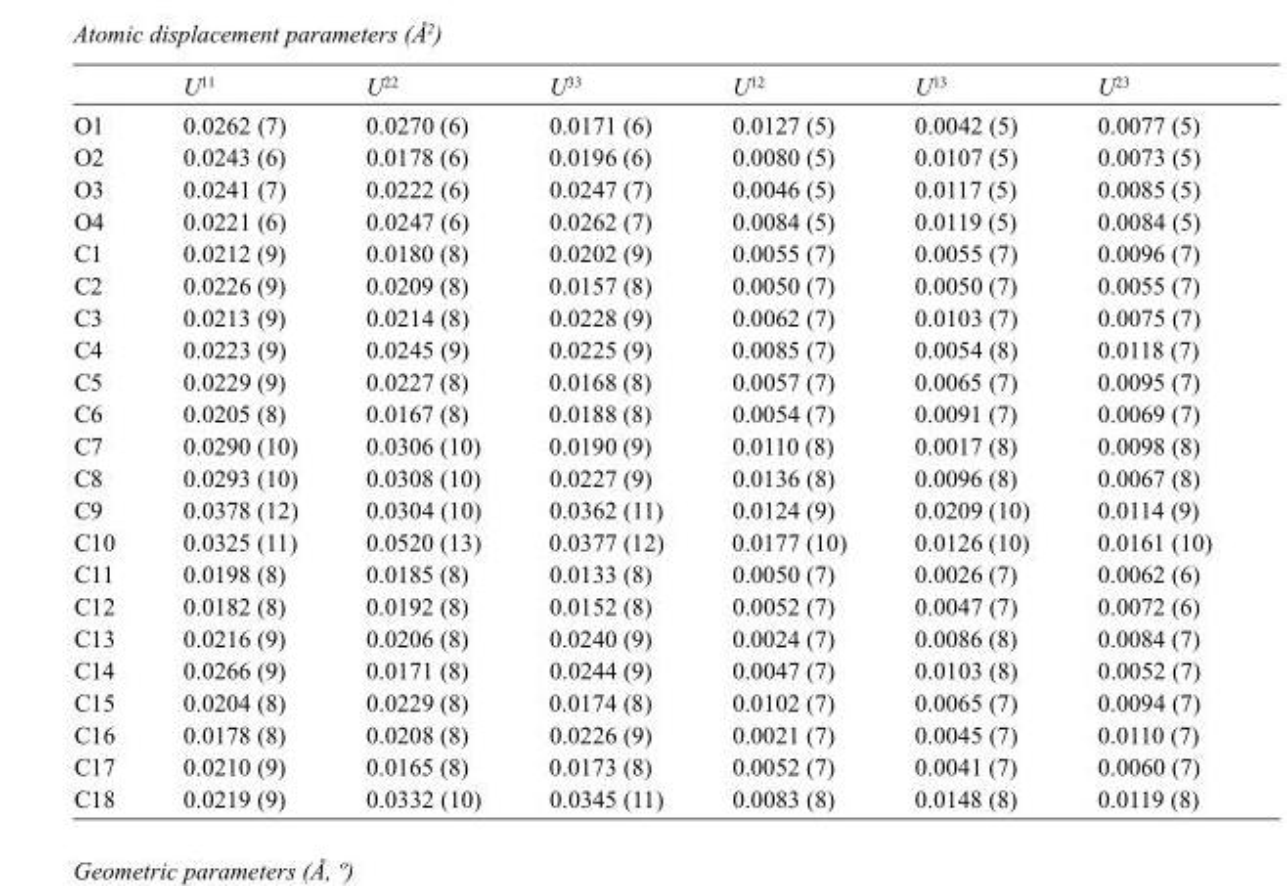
<table><thead><tr><td></td><td>U<sup>11</sup></td><td>U<sup>22</sup></td><td>U<sup>33</sup></td><td>U<sup>12</sup></td><td>U<sup>13</sup></td><td>U<sup>23</sup></td></tr></thead><tbody><tr><td>O1</td><td>0.0262 (7)</td><td>0.0270 (6)</td><td>0.0171 (6)</td><td>0.0127 (5)</td><td>0.0042 (5)</td><td>0.0077 (5)</td></tr><tr><td>O2</td><td>0.0243 (6)</td><td>0.0178 (6)</td><td>0.0196 (6)</td><td>0.0080 (5)</td><td>0.0107 (5)</td><td>0.0073 (5)</td></tr><tr><td>O3</td><td>0.0241 (7)</td><td>0.0222 (6)</td><td>0.0247 (7)</td><td>0.0046 (5)</td><td>0.0117 (5)</td><td>0.0085 (5)</td></tr><tr><td>O4</td><td>0.0221 (6)</td><td>0.0247 (6)</td><td>0.0262 (7)</td><td>0.0084 (5)</td><td>0.0119 (5)</td><td>0.0084 (5)</td></tr><tr><td>C1</td><td>0.0212 (9)</td><td>0.0180 (8)</td><td>0.0202 (9)</td><td>0.0055 (7)</td><td>0.0055 (7)</td><td>0.0096 (7)</td></tr><tr><td>C2</td><td>0.0226 (9)</td><td>0.0209 (8)</td><td>0.0157 (8)</td><td>0.0050 (7)</td><td>0.0050 (7)</td><td>0.0055 (7)</td></tr><tr><td>C3</td><td>0.0213 (9)</td><td>0.0214 (8)</td><td>0.0228 (9)</td><td>0.0062 (7)</td><td>0.0103 (7)</td><td>0.0075 (7)</td></tr><tr><td>C4</td><td>0.0223 (9)</td><td>0.0245 (9)</td><td>0.0225 (9)</td><td>0.0085 (7)</td><td>0.0054 (8)</td><td>0.0118 (7)</td></tr><tr><td>C5</td><td>0.0229 (9)</td><td>0.0227 (8)</td><td>0.0168 (8)</td><td>0.0057 (7)</td><td>0.0065 (7)</td><td>0.0095 (7)</td></tr><tr><td>C6</td><td>0.0205 (8)</td><td>0.0167 (8)</td><td>0.0188 (8)</td><td>0.0054 (7)</td><td>0.0091 (7)</td><td>0.0069 (7)</td></tr><tr><td>C7</td><td>0.0290 (10)</td><td>0.0306 (10)</td><td>0.0190 (9)</td><td>0.0110 (8)</td><td>0.0017 (8)</td><td>0.0098 (8)</td></tr><tr><td>C8</td><td>0.0293 (10)</td><td>0.0308 (10)</td><td>0.0227 (9)</td><td>0.0136 (8)</td><td>0.0096 (8)</td><td>0.0067 (8)</td></tr><tr><td>C9</td><td>0.0378 (12)</td><td>0.0304 (10)</td><td>0.0362 (11)</td><td>0.0124 (9)</td><td>0.0209 (10)</td><td>0.0114 (9)</td></tr><tr><td>C10</td><td>0.0325 (11)</td><td>0.0520 (13)</td><td>0.0377 (12)</td><td>0.0177 (10)</td><td>0.0126 (10)</td><td>0.0161 (10)</td></tr><tr><td>C11</td><td>0.0198 (8)</td><td>0.0185 (8)</td><td>0.0133 (8)</td><td>0.0050 (7)</td><td>0.0026 (7)</td><td>0.0062 (6)</td></tr><tr><td>C12</td><td>0.0182 (8)</td><td>0.0192 (8)</td><td>0.0152 (8)</td><td>0.0052 (7)</td><td>0.0047 (7)</td><td>0.0072 (6)</td></tr><tr><td>C13</td><td>0.0216 (9)</td><td>0.0206 (8)</td><td>0.0240 (9)</td><td>0.0024 (7)</td><td>0.0086 (8)</td><td>0.0084 (7)</td></tr><tr><td>C14</td><td>0.0266 (9)</td><td>0.0171 (8)</td><td>0.0244 (9)</td><td>0.0047 (7)</td><td>0.0103 (8)</td><td>0.0052 (7)</td></tr><tr><td>C15</td><td>0.0204 (8)</td><td>0.0229 (8)</td><td>0.0174 (8)</td><td>0.0102 (7)</td><td>0.0065 (7)</td><td>0.0094 (7)</td></tr><tr><td>C16</td><td>0.0178 (8)</td><td>0.0208 (8)</td><td>0.0226 (9)</td><td>0.0021 (7)</td><td>0.0045 (7)</td><td>0.0110 (7)</td></tr><tr><td>C17</td><td>0.0210 (9)</td><td>0.0165 (8)</td><td>0.0173 (8)</td><td>0.0052 (7)</td><td>0.0041 (7)</td><td>0.0060 (7)</td></tr><tr><td>C18</td><td>0.0219 (9)</td><td>0.0332 (10)</td><td>0.0345 (11)</td><td>0.0083 (8)</td><td>0.0148 (8)</td><td>0.0119 (8)</td></tr></tbody></table>